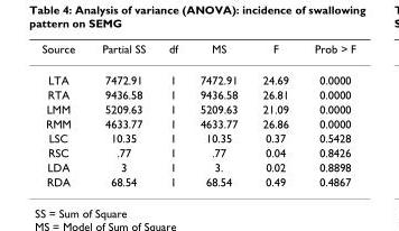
<table><thead><tr><td>Source</td><td>Partial SS</td><td>df</td><td>MS</td><td>F</td><td>Prob &gt; F</td></tr></thead><tbody><tr><td>LTA</td><td>7472.91</td><td>1</td><td>7472.91</td><td>24.69</td><td>0.0000</td></tr><tr><td>RTA</td><td>9436.58</td><td>1</td><td>9436.58</td><td>26.81</td><td>0.0000</td></tr><tr><td>LMM</td><td>5209.63</td><td>1</td><td>5209.63</td><td>21.09</td><td>0.0000</td></tr><tr><td>RMM</td><td>4633.77</td><td>1</td><td>4633.77</td><td>26.86</td><td>0.0000</td></tr><tr><td>LSC</td><td>10.35</td><td>1</td><td>10.35</td><td>0.37</td><td>0.5428</td></tr><tr><td>RSC</td><td>.77</td><td>1</td><td>.77</td><td>0.04</td><td>0.8426</td></tr><tr><td>LDA</td><td>3</td><td>1</td><td>3.</td><td>0.02</td><td>0.8898</td></tr><tr><td>RDA</td><td>68.54</td><td>1</td><td>68.54</td><td>0.49</td><td>0.4867</td></tr></tbody></table>